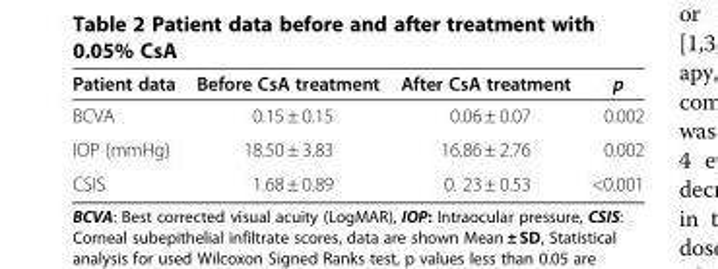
<table><thead><tr><td>Patient data</td><td>Before CsA treatment</td><td>After CsA treatment</td><td>p</td></tr></thead><tbody><tr><td>BCVA</td><td>0.15 ± 0.15</td><td>0.06 ± 0.07</td><td>0.002</td></tr><tr><td>IOP (mmHg)</td><td>18.50 ± 3.83</td><td>16.86 ± 2.76</td><td>0.002</td></tr><tr><td>CSIS</td><td>1.68 ± 0.89</td><td>0. 23 ± 0.53</td><td>&lt;0.001</td></tr></tbody></table>